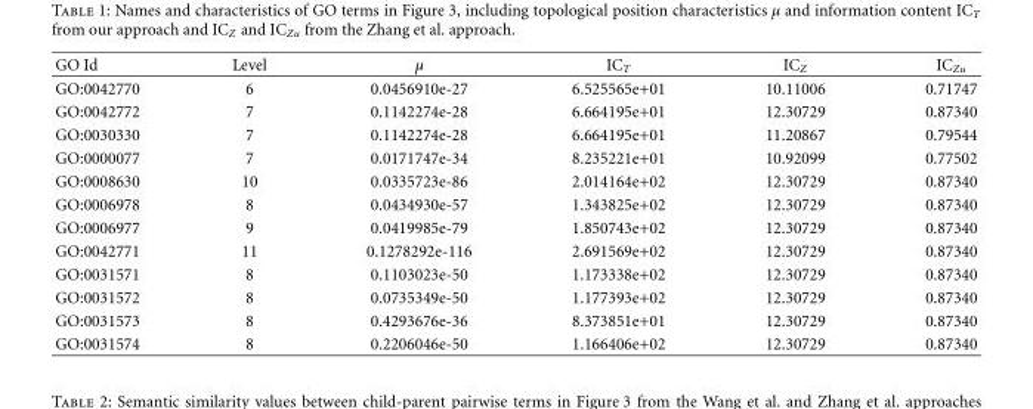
<table><thead><tr><td>GO Id</td><td>Level</td><td>μ</td><td>IC<sub>T</sub></td><td>IC<sub>Z</sub></td><td>IC<sub>Zu</sub></td></tr></thead><tbody><tr><td>GO:0042770</td><td>6</td><td>0.0456910e-27</td><td>6.525565e+01</td><td>10.11006</td><td>0.71747</td></tr><tr><td>GO:0042772</td><td>7</td><td>0.1142274e-28</td><td>6.664195e+01</td><td>12.30729</td><td>0.87340</td></tr><tr><td>GO:0030330</td><td>7</td><td>0.1142274e-28</td><td>6.664195e+01</td><td>11.20867</td><td>0.79544</td></tr><tr><td>GO:0000077</td><td>7</td><td>0.0171747e-34</td><td>8.235221e+01</td><td>10.92099</td><td>0.77502</td></tr><tr><td>GO:0008630</td><td>10</td><td>0.0335723e-86</td><td>2.014164e+02</td><td>12.30729</td><td>0.87340</td></tr><tr><td>GO:0006978</td><td>8</td><td>0.0434930e-57</td><td>1.343825e+02</td><td>12.30729</td><td>0.87340</td></tr><tr><td>GO:0006977</td><td>9</td><td>0.0419985e-79</td><td>1.850743e+02</td><td>12.30729</td><td>0.87340</td></tr><tr><td>GO:0042771</td><td>11</td><td>0.1278292e-116</td><td>2.691569e+02</td><td>12.30729</td><td>0.87340</td></tr><tr><td>GO:0031571</td><td>8</td><td>0.1103023e-50</td><td>1.173338e+02</td><td>12.30729</td><td>0.87340</td></tr><tr><td>GO:0031572</td><td>8</td><td>0.0735349e-50</td><td>1.177393e+02</td><td>12.30729</td><td>0.87340</td></tr><tr><td>GO:0031573</td><td>8</td><td>0.4293676e-36</td><td>8.373851e+01</td><td>12.30729</td><td>0.87340</td></tr><tr><td>GO:0031574</td><td>8</td><td>0.2206046e-50</td><td>1.166406e+02</td><td>12.30729</td><td>0.87340</td></tr></tbody></table>